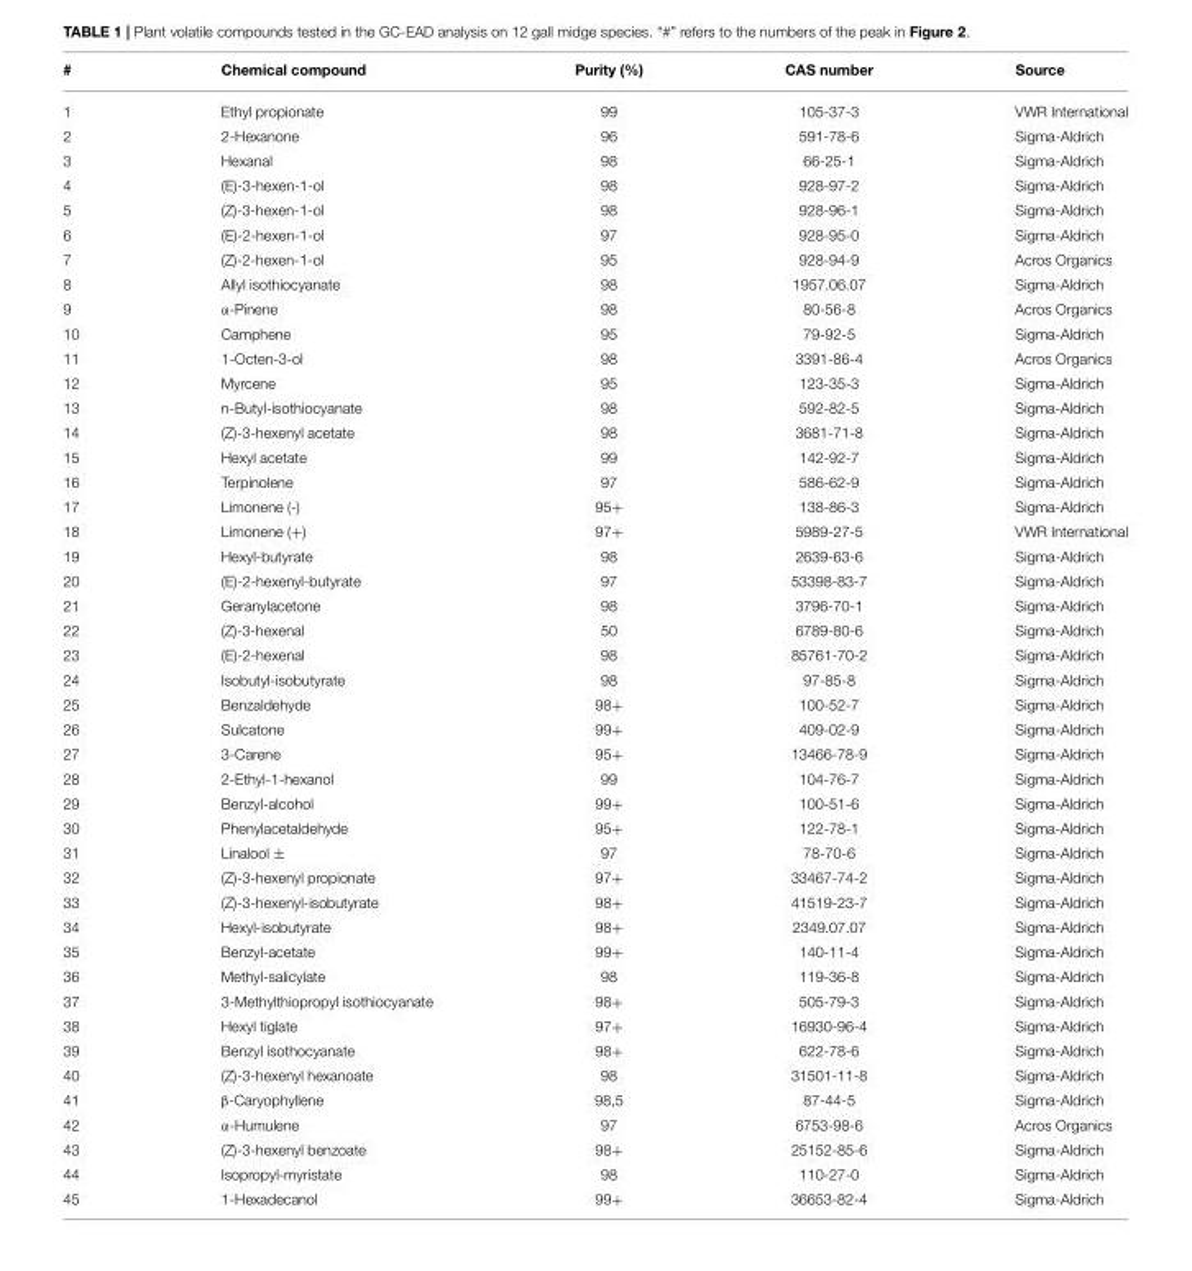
<table><thead><tr><td>#</td><td>Chemical compound</td><td>Purity (%)</td><td>CAS number</td><td>Source</td></tr></thead><tbody><tr><td>1</td><td>Ethyl propionate</td><td>99</td><td>105-37-3</td><td>VWR International</td></tr><tr><td>2</td><td>2-Hexanone</td><td>96</td><td>591-78-6</td><td>Sigma-Aldrich</td></tr><tr><td>3</td><td>Hexanal</td><td>98</td><td>66-25-1</td><td>Sigma-Aldrich</td></tr><tr><td>4</td><td>(E)-3-hexen-1-ol</td><td>98</td><td>928-97-2</td><td>Sigma-Aldrich</td></tr><tr><td>5</td><td>(Z)-3-hexen-1-ol</td><td>98</td><td>928-96-1</td><td>Sigma-Aldrich</td></tr><tr><td>6</td><td>(E)-2-hexen-1-ol</td><td>97</td><td>928-95-0</td><td>Sigma-Aldrich</td></tr><tr><td>7</td><td>(Z)-2-hexen-1-ol</td><td>95</td><td>928-94-9</td><td>Acros Organics</td></tr><tr><td>8</td><td>Allyl isothiocyanate</td><td>98</td><td>1957.06.07</td><td>Sigma-Aldrich</td></tr><tr><td>9</td><td>α-Pinene</td><td>98</td><td>80-56-8</td><td>Acros Organics</td></tr><tr><td>10</td><td>Camphene</td><td>95</td><td>79-92-5</td><td>Sigma-Aldrich</td></tr><tr><td>11</td><td>1-Octen-3-ol</td><td>98</td><td>3391-86-4</td><td>Acros Organics</td></tr><tr><td>12</td><td>Myrcene</td><td>95</td><td>123-35-3</td><td>Sigma-Aldrich</td></tr><tr><td>13</td><td>n-Butyl-isothiocyanate</td><td>98</td><td>592-82-5</td><td>Sigma-Aldrich</td></tr><tr><td>14</td><td>(Z)-3-hexenyl acetate</td><td>98</td><td>3681-71-8</td><td>Sigma-Aldrich</td></tr><tr><td>15</td><td>Hexyl acetate</td><td>99</td><td>142-92-7</td><td>Sigma-Aldrich</td></tr><tr><td>16</td><td>Terpinolene</td><td>97</td><td>586-62-9</td><td>Sigma-Aldrich</td></tr><tr><td>17</td><td>Limonene (-)</td><td>95+</td><td>138-86-3</td><td>Sigma-Aldrich</td></tr><tr><td>18</td><td>Limonene (+)</td><td>97+</td><td>5989-27-5</td><td>VWR International</td></tr><tr><td>19</td><td>Hexyl-butyrate</td><td>98</td><td>2639-63-6</td><td>Sigma-Aldrich</td></tr><tr><td>20</td><td>(E)-2-hexenyl-butyrate</td><td>97</td><td>53398-83-7</td><td>Sigma-Aldrich</td></tr><tr><td>21</td><td>Geranylacetone</td><td>98</td><td>3796-70-1</td><td>Sigma-Aldrich</td></tr><tr><td>22</td><td>(Z)-3-hexenal</td><td>50</td><td>6789-80-6</td><td>Sigma-Aldrich</td></tr><tr><td>23</td><td>(E)-2-hexenal</td><td>98</td><td>85761-70-2</td><td>Sigma-Aldrich</td></tr><tr><td>24</td><td>Isobutyl-isobutyrate</td><td>98</td><td>97-85-8</td><td>Sigma-Aldrich</td></tr><tr><td>25</td><td>Benzaldehyde</td><td>98+</td><td>100-52-7</td><td>Sigma-Aldrich</td></tr><tr><td>26</td><td>Sulcatone</td><td>99+</td><td>409-02-9</td><td>Sigma-Aldrich</td></tr><tr><td>27</td><td>3-Carene</td><td>95+</td><td>13466-78-9</td><td>Sigma-Aldrich</td></tr><tr><td>28</td><td>2-Ethyl-1-hexanol</td><td>99</td><td>104-76-7</td><td>Sigma-Aldrich</td></tr><tr><td>29</td><td>Benzyl-alcohol</td><td>99+</td><td>100-51-6</td><td>Sigma-Aldrich</td></tr><tr><td>30</td><td>Phenylacetaldehyde</td><td>95+</td><td>122-78-1</td><td>Sigma-Aldrich</td></tr><tr><td>31</td><td>Linalool ±</td><td>97</td><td>78-70-6</td><td>Sigma-Aldrich</td></tr><tr><td>32</td><td>(Z)-3-hexenyl propionate</td><td>97+</td><td>33467-74-2</td><td>Sigma-Aldrich</td></tr><tr><td>33</td><td>(Z)-3-hexenyl-isobutyrate</td><td>98+</td><td>41519-23-7</td><td>Sigma-Aldrich</td></tr><tr><td>34</td><td>Hexyl-isobutyrate</td><td>98+</td><td>2349.07.07</td><td>Sigma-Aldrich</td></tr><tr><td>35</td><td>Benzyl-acetate</td><td>99+</td><td>140-11-4</td><td>Sigma-Aldrich</td></tr><tr><td>36</td><td>Methyl-salicylate</td><td>98</td><td>119-36-8</td><td>Sigma-Aldrich</td></tr><tr><td>37</td><td>3-Methylthiopropyl isothiocyanate</td><td>98+</td><td>505-79-3</td><td>Sigma-Aldrich</td></tr><tr><td>38</td><td>Hexyl tiglate</td><td>97+</td><td>16930-96-4</td><td>Sigma-Aldrich</td></tr><tr><td>39</td><td>Benzyl isothocyanate</td><td>98+</td><td>622-78-6</td><td>Sigma-Aldrich</td></tr><tr><td>40</td><td>(Z)-3-hexenyl hexanoate</td><td>98</td><td>31501-11-8</td><td>Sigma-Aldrich</td></tr><tr><td>41</td><td>β-Caryophyllene</td><td>98,5</td><td>87-44-5</td><td>Sigma-Aldrich</td></tr><tr><td>42</td><td>α-Humulene</td><td>97</td><td>6753-98-6</td><td>Acros Organics</td></tr><tr><td>43</td><td>(Z)-3-hexenyl benzoate</td><td>98+</td><td>25152-85-6</td><td>Sigma-Aldrich</td></tr><tr><td>44</td><td>Isopropyl-myristate</td><td>98</td><td>110-27-0</td><td>Sigma-Aldrich</td></tr><tr><td>45</td><td>1-Hexadecanol</td><td>99+</td><td>36653-82-4</td><td>Sigma-Aldrich</td></tr></tbody></table>